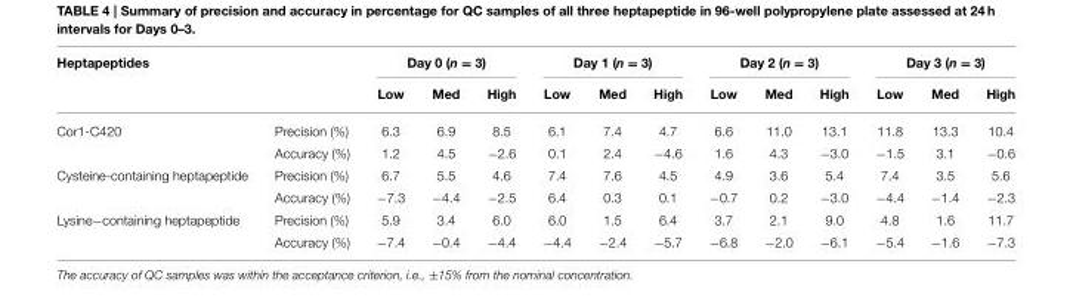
<table><thead><tr><td rowspan="2">Heptapeptides</td><td rowspan="2"></td><td colspan="3">Day 0 (n = 3)</td><td colspan="3">Day 1 (n = 3)</td><td colspan="3">Day 2 (n = 3)</td><td colspan="3">Day 3 (n = 3)</td></tr><tr><td>Low</td><td>Med</td><td>High</td><td>Low</td><td>Med</td><td>High</td><td>Low</td><td>Med</td><td>High</td><td>Low</td><td>Med</td><td>High</td></tr></thead><tbody><tr><td rowspan="2">Cor1-C420</td><td>Precision (%)</td><td>6.3</td><td>6.9</td><td>8.5</td><td>6.1</td><td>7.4</td><td>4.7</td><td>6.6</td><td>11.0</td><td>13.1</td><td>11.8</td><td>13.3</td><td>10.4</td></tr><tr><td>Accuracy (%)</td><td>1.2</td><td>4.5</td><td>−2.6</td><td>0.1</td><td>2.4</td><td>−4.6</td><td>1.6</td><td>4.3</td><td>−3.0</td><td>−1.5</td><td>3.1</td><td>−0.6</td></tr><tr><td rowspan="2">Cysteine-containing heptapeptide</td><td>Precision (%)</td><td>6.7</td><td>5.5</td><td>4.6</td><td>7.4</td><td>7.6</td><td>4.5</td><td>4.9</td><td>3.6</td><td>5.4</td><td>7.4</td><td>3.5</td><td>5.6</td></tr><tr><td>Accuracy (%)</td><td>−7.3</td><td>−4.4</td><td>−2.5</td><td>6.4</td><td>0.3</td><td>0.1</td><td>−0.7</td><td>0.2</td><td>−3.0</td><td>−4.4</td><td>−1.4</td><td>−2.3</td></tr><tr><td rowspan="2">Lysine−containing heptapeptide</td><td>Precision (%)</td><td>5.9</td><td>3.4</td><td>6.0</td><td>6.0</td><td>1.5</td><td>6.4</td><td>3.7</td><td>2.1</td><td>9.0</td><td>4.8</td><td>1.6</td><td>11.7</td></tr><tr><td>Accuracy (%)</td><td>−7.4</td><td>−0.4</td><td>−4.4</td><td>−4.4</td><td>−2.4</td><td>−5.7</td><td>−6.8</td><td>−2.0</td><td>−6.1</td><td>−5.4</td><td>−1.6</td><td>−7.3</td></tr></tbody></table>